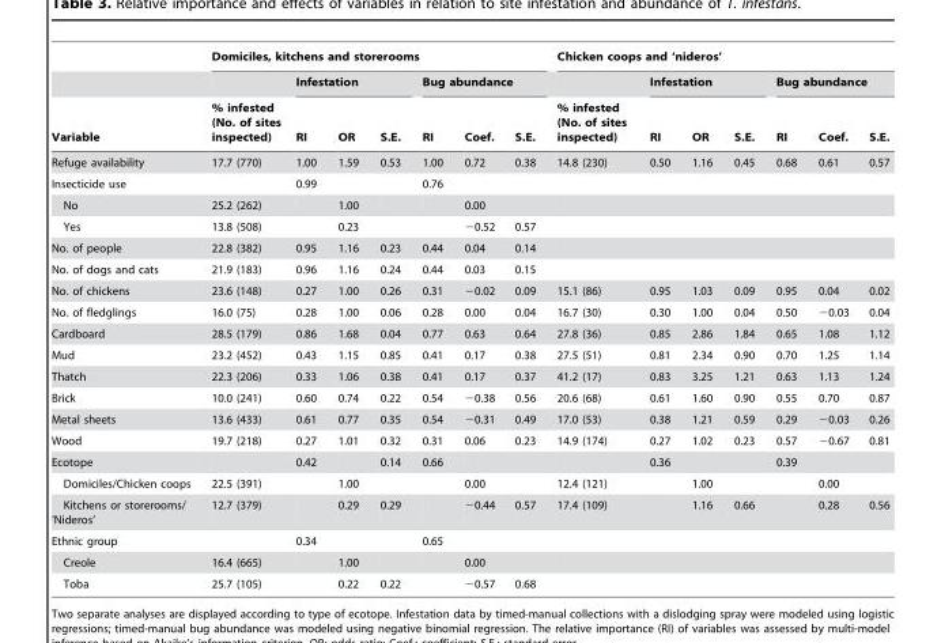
<table><thead><tr><td rowspan="3">Variable</td><td colspan="7">Domiciles, kitchens and storerooms</td><td colspan="7">Chicken coops and ‘nideros’</td></tr><tr><td rowspan="2">% infested (No. of sites inspected)</td><td colspan="3">Infestation</td><td colspan="3">Bug abundance</td><td rowspan="2">% infested (No. of sites inspected)</td><td colspan="3">Infestation</td><td colspan="3">Bug abundance</td></tr><tr><td>RI</td><td>OR</td><td>S.E.</td><td>RI</td><td>Coef.</td><td>S.E.</td><td>RI</td><td>OR</td><td>S.E.</td><td>RI</td><td>Coef.</td><td>S.E.</td></tr></thead><tbody><tr><td>Refuge availability</td><td>17.7 (770)</td><td>1.00</td><td>1.59</td><td>0.53</td><td>1.00</td><td>0.72</td><td>0.38</td><td>14.8 (230)</td><td>0.50</td><td>1.16</td><td>0.45</td><td>0.68</td><td>0.61</td><td>0.57</td></tr><tr><td>Insecticide use</td><td></td><td>0.99</td><td></td><td></td><td>0.76</td><td></td><td></td><td></td><td></td><td></td><td></td><td></td><td></td><td></td></tr><tr><td>No</td><td>25.2 (262)</td><td></td><td>1.00</td><td></td><td></td><td>0.00</td><td></td><td></td><td></td><td></td><td></td><td></td><td></td><td></td></tr><tr><td>Yes</td><td>13.8 (508)</td><td></td><td>0.23</td><td></td><td></td><td>−0.52</td><td>0.57</td><td></td><td></td><td></td><td></td><td></td><td></td><td></td></tr><tr><td>No. of people</td><td>22.8 (382)</td><td>0.95</td><td>1.16</td><td>0.23</td><td>0.44</td><td>0.04</td><td>0.14</td><td></td><td></td><td></td><td></td><td></td><td></td><td></td></tr><tr><td>No. of dogs and cats</td><td>21.9 (183)</td><td>0.96</td><td>1.16</td><td>0.24</td><td>0.44</td><td>0.03</td><td>0.15</td><td></td><td></td><td></td><td></td><td></td><td></td><td></td></tr><tr><td>No. of chickens</td><td>23.6 (148)</td><td>0.27</td><td>1.00</td><td>0.26</td><td>0.31</td><td>−0.02</td><td>0.09</td><td>15.1 (86)</td><td>0.95</td><td>1.03</td><td>0.09</td><td>0.95</td><td>0.04</td><td>0.02</td></tr><tr><td>No. of fledglings</td><td>16.0 (75)</td><td>0.28</td><td>1.00</td><td>0.06</td><td>0.28</td><td>0.00</td><td>0.04</td><td>16.7 (30)</td><td>0.30</td><td>1.00</td><td>0.04</td><td>0.50</td><td>−0.03</td><td>0.04</td></tr><tr><td>Cardboard</td><td>28.5 (179)</td><td>0.86</td><td>1.68</td><td>0.04</td><td>0.77</td><td>0.63</td><td>0.64</td><td>27.8 (36)</td><td>0.85</td><td>2.86</td><td>1.84</td><td>0.65</td><td>1.08</td><td>1.12</td></tr><tr><td>Mud</td><td>23.2 (452)</td><td>0.43</td><td>1.15</td><td>0.85</td><td>0.41</td><td>0.17</td><td>0.38</td><td>27.5 (51)</td><td>0.81</td><td>2.34</td><td>0.90</td><td>0.70</td><td>1.25</td><td>1.14</td></tr><tr><td>Thatch</td><td>22.3 (206)</td><td>0.33</td><td>1.06</td><td>0.38</td><td>0.41</td><td>0.17</td><td>0.37</td><td>41.2 (17)</td><td>0.83</td><td>3.25</td><td>1.21</td><td>0.63</td><td>1.13</td><td>1.24</td></tr><tr><td>Brick</td><td>10.0 (241)</td><td>0.60</td><td>0.74</td><td>0.22</td><td>0.54</td><td>−0.38</td><td>0.56</td><td>20.6 (68)</td><td>0.61</td><td>1.60</td><td>0.90</td><td>0.55</td><td>0.70</td><td>0.87</td></tr><tr><td>Metal sheets</td><td>13.6 (433)</td><td>0.61</td><td>0.77</td><td>0.35</td><td>0.54</td><td>−0.31</td><td>0.49</td><td>17.0 (53)</td><td>0.38</td><td>1.21</td><td>0.59</td><td>0.29</td><td>−0.03</td><td>0.26</td></tr><tr><td>Wood</td><td>19.7 (218)</td><td>0.27</td><td>1.01</td><td>0.32</td><td>0.31</td><td>0.06</td><td>0.23</td><td>14.9 (174)</td><td>0.27</td><td>1.02</td><td>0.23</td><td>0.57</td><td>−0.67</td><td>0.81</td></tr><tr><td>Ecotope</td><td></td><td>0.42</td><td></td><td>0.14</td><td>0.66</td><td></td><td></td><td></td><td>0.36</td><td></td><td></td><td>0.39</td><td></td><td></td></tr><tr><td>Domiciles/Chicken coops</td><td>22.5 (391)</td><td></td><td>1.00</td><td></td><td></td><td>0.00</td><td></td><td>12.4 (121)</td><td></td><td>1.00</td><td></td><td></td><td>0.00</td><td></td></tr><tr><td>Kitchens or storerooms/ ‘Nideros’</td><td>12.7 (379)</td><td></td><td>0.29</td><td>0.29</td><td></td><td>−0.44</td><td>0.57</td><td>17.4 (109)</td><td></td><td>1.16</td><td>0.66</td><td></td><td>0.28</td><td>0.56</td></tr><tr><td>Ethnic group</td><td></td><td>0.34</td><td></td><td></td><td>0.65</td><td></td><td></td><td></td><td></td><td></td><td></td><td></td><td></td><td></td></tr><tr><td>Creole</td><td>16.4 (665)</td><td></td><td>1.00</td><td></td><td></td><td>0.00</td><td></td><td></td><td></td><td></td><td></td><td></td><td></td><td></td></tr><tr><td>Toba</td><td>25.7 (105)</td><td></td><td>0.22</td><td>0.22</td><td></td><td>−0.57</td><td>0.68</td><td></td><td></td><td></td><td></td><td></td><td></td><td></td></tr></tbody></table>